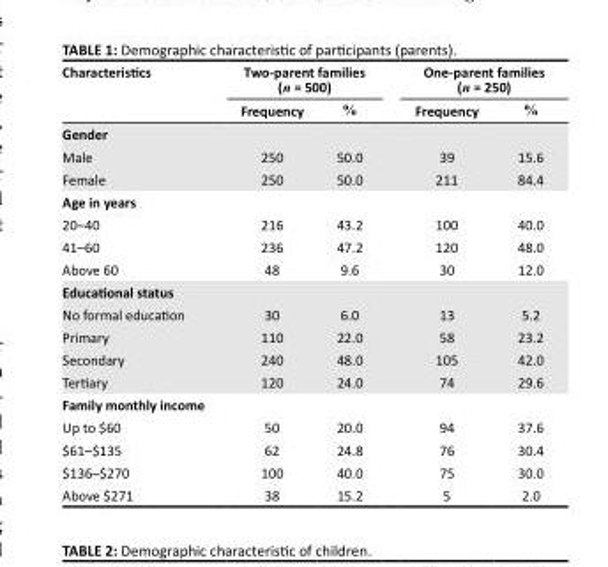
<table><thead><tr><td rowspan="2">Characteristics</td><td colspan="2">Two-parent families (n = 500)</td><td colspan="2">One-parent families (n = 250)</td></tr><tr><td>Frequency</td><td>%</td><td>Frequency</td><td>%</td></tr></thead><tbody><tr><td colspan="5">Gender</td></tr><tr><td>Male</td><td>250</td><td>50.0</td><td>39</td><td>15.6</td></tr><tr><td>Female</td><td>250</td><td>50.0</td><td>211</td><td>84.4</td></tr><tr><td colspan="5">Age in years</td></tr><tr><td>20–40</td><td>216</td><td>43.2</td><td>100</td><td>40.0</td></tr><tr><td>41–60</td><td>236</td><td>47.2</td><td>120</td><td>48.0</td></tr><tr><td>Above 60</td><td>48</td><td>9.6</td><td>30</td><td>12.0</td></tr><tr><td colspan="5">Educational status</td></tr><tr><td>No formal education</td><td>30</td><td>6.0</td><td>13</td><td>5.2</td></tr><tr><td>Primary</td><td>110</td><td>22.0</td><td>58</td><td>23.2</td></tr><tr><td>Secondary</td><td>240</td><td>48.0</td><td>105</td><td>42.0</td></tr><tr><td>Tertiary</td><td>120</td><td>24.0</td><td>74</td><td>29.6</td></tr><tr><td colspan="5">Family monthly income</td></tr><tr><td>Up to $60</td><td>50</td><td>20.0</td><td>94</td><td>37.6</td></tr><tr><td>$61–$135</td><td>62</td><td>24.8</td><td>76</td><td>30.4</td></tr><tr><td>$136–$270</td><td>100</td><td>40.0</td><td>75</td><td>30.0</td></tr><tr><td>Above $271</td><td>38</td><td>15.2</td><td>5</td><td>2.0</td></tr></tbody></table>